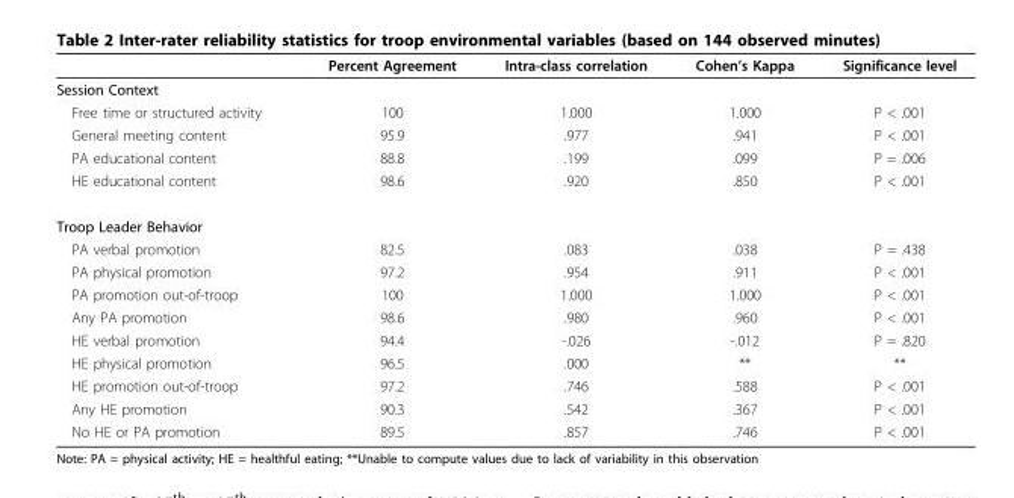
<table><thead><tr><td></td><td>Percent Agreement</td><td>Intra-class correlation</td><td>Cohen’s Kappa</td><td>Significance level</td></tr></thead><tbody><tr><td colspan="5">Session Context</td></tr><tr><td>Free time or structured activity</td><td>100</td><td>1.000</td><td>1.000</td><td>P &lt; .001</td></tr><tr><td>General meeting content</td><td>95.9</td><td>.977</td><td>.941</td><td>P &lt; .001</td></tr><tr><td>PA educational content</td><td>88.8</td><td>.199</td><td>.099</td><td>P = .006</td></tr><tr><td>HE educational content</td><td>98.6</td><td>.920</td><td>.850</td><td>P &lt; .001</td></tr><tr><td colspan="5">Troop Leader Behavior</td></tr><tr><td>PA verbal promotion</td><td>82.5</td><td>.083</td><td>.038</td><td>P = .438</td></tr><tr><td>PA physical promotion</td><td>97.2</td><td>.954</td><td>.911</td><td>P &lt; .001</td></tr><tr><td>PA promotion out-of-troop</td><td>100</td><td>1.000</td><td>1.000</td><td>P &lt; .001</td></tr><tr><td>Any PA promotion</td><td>98.6</td><td>.980</td><td>.960</td><td>P &lt; .001</td></tr><tr><td>HE verbal promotion</td><td>94.4</td><td>-.026</td><td>-.012</td><td>P = .820</td></tr><tr><td>HE physical promotion</td><td>96.5</td><td>.000</td><td>**</td><td>**</td></tr><tr><td>HE promotion out-of-troop</td><td>97.2</td><td>.746</td><td>.588</td><td>P &lt; .001</td></tr><tr><td>Any HE promotion</td><td>90.3</td><td>.542</td><td>.367</td><td>P &lt; .001</td></tr><tr><td>No HE or PA promotion</td><td>89.5</td><td>.857</td><td>.746</td><td>P &lt; .001</td></tr></tbody></table>